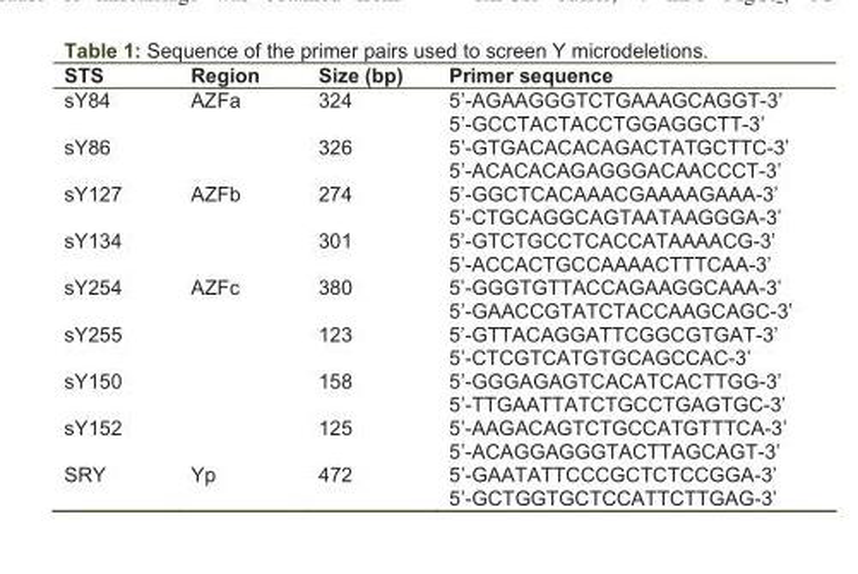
<table><thead><tr><td>STS</td><td>Region</td><td>Size (bp)</td><td>Primer sequence</td></tr></thead><tbody><tr><td>sY84</td><td rowspan="2">AZFa</td><td>324</td><td>5’-AGAAGGGTCTGAAAGCAGGT-3’ 5’-GCCTACTACCTGGAGGCTT-3’</td></tr><tr><td>sY86</td><td>326</td><td>5’-GTGACACACAGACTATGCTTC-3’ 5’-ACACACAGAGGGACAACCCT-3’</td></tr><tr><td>sY127</td><td rowspan="2">AZFb</td><td>274</td><td>5’-GGCTCACAAACGAAAAGAAA-3’ 5’-CTGCAGGCAGTAATAAGGGA-3’</td></tr><tr><td>sY134</td><td>301</td><td>5’-GTCTGCCTCACCATAAAACG-3’ 5’-ACCACTGCCAAAACTTTCAA-3’</td></tr><tr><td>sY254</td><td rowspan="4">AZFc</td><td>380</td><td>5’-GGGTGTTACCAGAAGGCAAA-3’ 5’-GAACCGTATCTACCAAGCAGC-3’</td></tr><tr><td>sY255</td><td>123</td><td>5’-GTTACAGGATTCGGCGTGAT-3’ 5’-CTCGTCATGTGCAGCCAC-3’</td></tr><tr><td>sY150</td><td>158</td><td>5’-GGGAGAGTCACATCACTTGG-3’ 5’-TTGAATTATCTGCCTGAGTGC-3’</td></tr><tr><td>sY152</td><td>125</td><td>5’-AAGACAGTCTGCCATGTTTCA-3’ 5’-ACAGGAGGGTACTTAGCAGT-3’</td></tr><tr><td>SRY</td><td>Yp</td><td>472</td><td>5’-GAATATTCCCGCTCTCCGGA-3’ 5’-GCTGGTGCTCCATTCTTGAG-3’</td></tr></tbody></table>